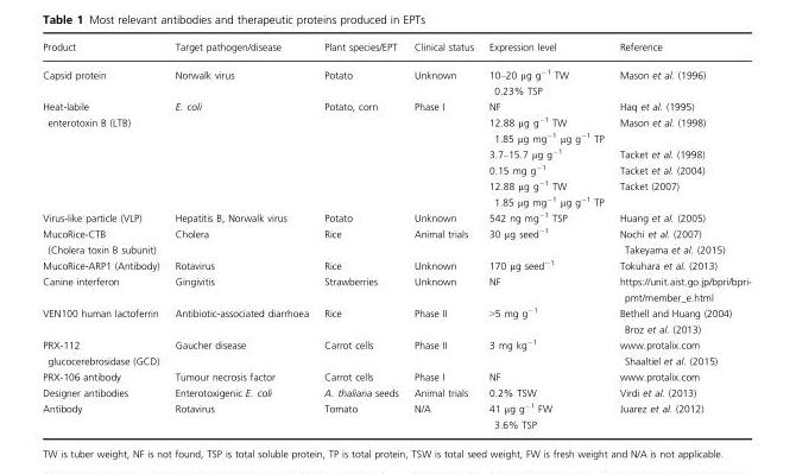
<table><thead><tr><td>Product</td><td>Target pathogen/disease</td><td>Plant species/EPT</td><td>Clinical status</td><td>Expression level</td><td>Reference</td></tr></thead><tbody><tr><td>Capsid protein</td><td>Norwalk virus</td><td>Potato</td><td>Unknown</td><td>10–20 μg g<sup>−1</sup> TW 0.23% TSP</td><td>Mason et al. (1996)</td></tr><tr><td rowspan="5">Heat-labile enterotoxin B (LTB)</td><td rowspan="5">E. coli</td><td rowspan="5">Potato, corn</td><td rowspan="5">Phase I</td><td>NF</td><td>Haq et al. (1995)</td></tr><tr><td>12.88 μg g<sup>−1</sup> TW 1.85 μg mg<sup>−1</sup> μg g<sup>−1</sup> TP</td><td>Mason et al. (1998)</td></tr><tr><td>3.7–15.7 μg g<sup>−1</sup></td><td>Tacket et al. (1998)</td></tr><tr><td>0.15 mg g<sup>−1</sup></td><td>Tacket et al. (2004)</td></tr><tr><td>12.88 μg g<sup>−1</sup> TW 1.85 μg mg<sup>−1</sup> μg g<sup>−1</sup> TP</td><td>Tacket (2007)</td></tr><tr><td>Virus-like particle (VLP)</td><td>Hepatitis B, Norwalk virus</td><td>Potato</td><td>Unknown</td><td>542 ng mg<sup>−1</sup> TSP</td><td>Huang et al. (2005)</td></tr><tr><td>MucoRice-CTB (Cholera toxin B subunit)</td><td>Cholera</td><td>Rice</td><td>Animal trials</td><td>30 μg seed<sup>−1</sup></td><td>Nochi et al. (2007) Takeyama et al. (2015)</td></tr><tr><td>MucoRice-ARP1 (Antibody)</td><td>Rotavirus</td><td>Rice</td><td>Unknown</td><td>170 μg seed<sup>−1</sup></td><td>Tokuhara et al. (2013)</td></tr><tr><td>Canine interferon</td><td>Gingivitis</td><td>Strawberries</td><td>Unknown</td><td>NF</td><td>https://unit.aist.go.jp/bpri/bpri- pmt/member_e.html</td></tr><tr><td>VEN100 human lactoferrin</td><td>Antibiotic-associated diarrhoea</td><td>Rice</td><td>Phase II</td><td>&gt;5 mg g<sup>−1</sup></td><td>Bethell and Huang (2004) Broz et al. (2013)</td></tr><tr><td>PRX-112 glucocerebrosidase (GCD)</td><td>Gaucher disease</td><td>Carrot cells</td><td>Phase II</td><td>3 mg kg<sup>−1</sup></td><td>www.protalix.com Shaaltiel et al. (2015)</td></tr><tr><td>PRX-106 antibody</td><td>Tumour necrosis factor</td><td>Carrot cells</td><td>Phase I</td><td>NF</td><td>www.protalix.com</td></tr><tr><td>Designer antibodies</td><td>Enterotoxigenic E. coli</td><td>A. thaliana seeds</td><td>Animal trials</td><td>0.2% TSW</td><td>Virdi et al. (2013)</td></tr><tr><td>Antibody</td><td>Rotavirus</td><td>Tomato</td><td>N/A</td><td>41 μg g<sup>−1</sup> FW 3.6% TSP</td><td>Juarez et al. (2012)</td></tr></tbody></table>